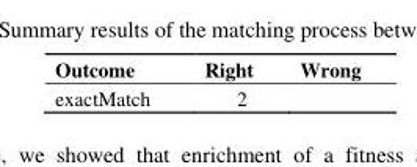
<table><thead><tr><td>Outcome</td><td>Right</td><td>Wrong</td></tr></thead><tbody><tr><td>exactMatch</td><td>2</td><td></td></tr></tbody></table>